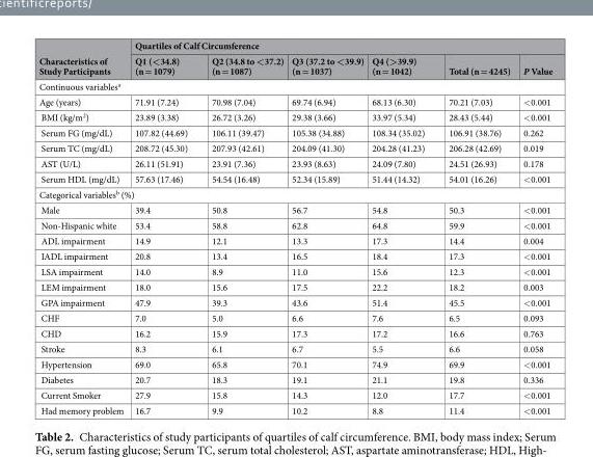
<table><thead><tr><td rowspan="2">Characteristics of Study Participants</td><td colspan="6">Quartiles of Calf Circumference</td></tr><tr><td>Q1 (&lt;34.8) (n = 1079)</td><td>Q2 (34.8 to &lt;37.2) (n = 1087)</td><td>Q3 (37.2 to &lt;39.9) (n = 1037)</td><td>Q4 (&gt;39.9) (n = 1042)</td><td>Total (n = 4245)</td><td>P Value</td></tr></thead><tbody><tr><td colspan="7">Continuous variables<sup>a</sup></td></tr><tr><td>Age (years)</td><td>71.91 (7.24)</td><td>70.98 (7.04)</td><td>69.74 (6.94)</td><td>68.13 (6.30)</td><td>70.21 (7.03)</td><td>&lt;0.001</td></tr><tr><td>BMI (kg/m<sup>2</sup>)</td><td>23.89 (3.38)</td><td>26.72 (3.26)</td><td>29.38 (3.66)</td><td>33.97 (5.34)</td><td>28.43 (5.44)</td><td>&lt;0.001</td></tr><tr><td>Serum FG (mg/dL)</td><td>107.82 (44.69)</td><td>106.11 (39.47)</td><td>105.38 (34.88)</td><td>108.34 (35.02)</td><td>106.91 (38.76)</td><td>0.262</td></tr><tr><td>Serum TC (mg/dL)</td><td>208.72 (45.30)</td><td>207.93 (42.61)</td><td>204.09 (41.30)</td><td>204.28 (41.23)</td><td>206.28 (42.69)</td><td>0.019</td></tr><tr><td>AST (U/L)</td><td>26.11 (51.91)</td><td>23.91 (7.36)</td><td>23.93 (8.63)</td><td>24.09 (7.80)</td><td>24.51 (26.93)</td><td>0.178</td></tr><tr><td>Serum HDL (mg/dL)</td><td>57.63 (17.46)</td><td>54.54 (16.48)</td><td>52.34 (15.89)</td><td>51.44 (14.32)</td><td>54.01 (16.26)</td><td>&lt;0.001</td></tr><tr><td colspan="7">Categorical variables<sup>b</sup> (%)</td></tr><tr><td>Male</td><td>39.4</td><td>50.8</td><td>56.7</td><td>54.8</td><td>50.3</td><td>&lt;0.001</td></tr><tr><td>Non-Hispanic white</td><td>53.4</td><td>58.8</td><td>62.8</td><td>64.8</td><td>59.9</td><td>&lt;0.001</td></tr><tr><td>ADL impairment</td><td>14.9</td><td>12.1</td><td>13.3</td><td>17.3</td><td>14.4</td><td>0.004</td></tr><tr><td>IADL impairment</td><td>20.8</td><td>13.4</td><td>16.5</td><td>18.4</td><td>17.3</td><td>&lt;0.001</td></tr><tr><td>LSA impairment</td><td>14.0</td><td>8.9</td><td>11.0</td><td>15.6</td><td>12.3</td><td>&lt;0.001</td></tr><tr><td>LEM impairment</td><td>18.0</td><td>15.6</td><td>17.5</td><td>22.2</td><td>18.2</td><td>0.003</td></tr><tr><td>GPA impairment</td><td>47.9</td><td>39.3</td><td>43.6</td><td>51.4</td><td>45.5</td><td>&lt;0.001</td></tr><tr><td>CHF</td><td>7.0</td><td>5.0</td><td>6.6</td><td>7.6</td><td>6.5</td><td>0.093</td></tr><tr><td>CHD</td><td>16.2</td><td>15.9</td><td>17.3</td><td>17.2</td><td>16.6</td><td>0.763</td></tr><tr><td>Stroke</td><td>8.3</td><td>6.1</td><td>6.7</td><td>5.5</td><td>6.6</td><td>0.058</td></tr><tr><td>Hypertension</td><td>69.0</td><td>65.8</td><td>70.1</td><td>74.9</td><td>69.9</td><td>&lt;0.001</td></tr><tr><td>Diabetes</td><td>20.7</td><td>18.3</td><td>19.1</td><td>21.1</td><td>19.8</td><td>0.336</td></tr><tr><td>Current Smoker</td><td>27.9</td><td>15.8</td><td>14.3</td><td>12.0</td><td>17.7</td><td>&lt;0.001</td></tr><tr><td>Had memory problem</td><td>16.7</td><td>9.9</td><td>10.2</td><td>8.8</td><td>11.4</td><td>&lt;0.001</td></tr></tbody></table>